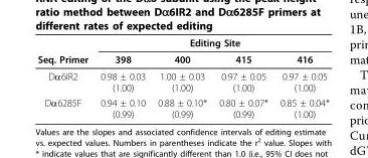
<table><thead><tr><td rowspan="2">Seq. Primer</td><td colspan="4">Editing Site</td></tr><tr><td>398</td><td>400</td><td>415</td><td>416</td></tr></thead><tbody><tr><td>Dα6IR2</td><td>0.98 ± 0.03 (1.00)</td><td>1.00 ± 0.03 (1.00)</td><td>0.97 ± 0.05 (1.00)</td><td>0.97 ± 0.05 (1.00)</td></tr><tr><td>Dα6285F</td><td>0.94 ± 0.10 (0.99)</td><td>0.88 ± 0.10* (0.99)</td><td>0.80 ± 0.07* (0.99)</td><td>0.85 ± 0.04* (1.00)</td></tr></tbody></table>